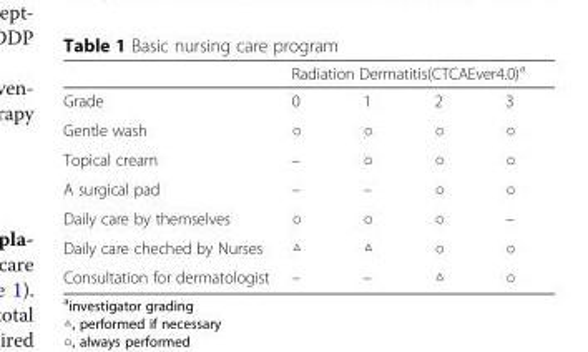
<table><thead><tr><td rowspan="2">Grade</td><td colspan="4">Radiation Dermatitis(CTCAEver4.0)<sup>a</sup></td></tr><tr><td>0</td><td>1</td><td>2</td><td>3</td></tr></thead><tbody><tr><td>Gentle wash</td><td>○</td><td>○</td><td>○</td><td>○</td></tr><tr><td>Topical cream</td><td>–</td><td>○</td><td>○</td><td>○</td></tr><tr><td>A surgical pad</td><td>–</td><td>–</td><td>○</td><td>○</td></tr><tr><td>Daily care by themselves</td><td>○</td><td>○</td><td>○</td><td>–</td></tr><tr><td>Daily care cheched by Nurses</td><td>△</td><td>△</td><td>○</td><td>○</td></tr><tr><td>Consultation for dermatologist</td><td>–</td><td>–</td><td>△</td><td>○</td></tr></tbody></table>